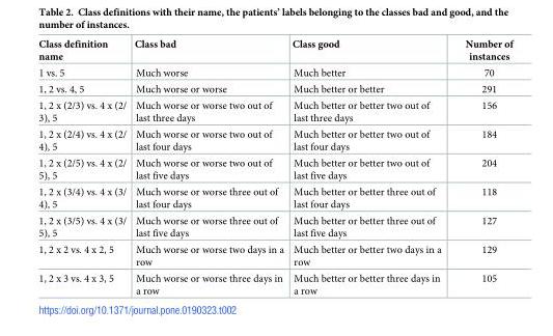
<table><thead><tr><td>Class definition name</td><td>Class bad</td><td>Class good</td><td>Number of instances</td></tr></thead><tbody><tr><td>1 vs. 5</td><td>Much worse</td><td>Much better</td><td>70</td></tr><tr><td>1, 2 vs. 4, 5</td><td>Much worse or worse</td><td>Much better or better</td><td>291</td></tr><tr><td>1, 2 x (2/3) vs. 4 x (2/ 3), 5</td><td>Much worse or worse two out of last three days</td><td>Much better or better two out of last three days</td><td>156</td></tr><tr><td>1, 2 x (2/4) vs. 4 x (2/ 4), 5</td><td>Much worse or worse two out of last four days</td><td>Much better or better two out of last four days</td><td>184</td></tr><tr><td>1, 2 x (2/5) vs. 4 x (2/ 5), 5</td><td>Much worse or worse two out of last five days</td><td>Much better or better two out of last five days</td><td>204</td></tr><tr><td>1, 2 x (3/4) vs. 4 x (3/ 4), 5</td><td>Much worse or worse three out of last four days</td><td>Much better or better three out of last four days</td><td>118</td></tr><tr><td>1, 2 x (3/5) vs. 4 x (3/ 5), 5</td><td>Much worse or worse three out of last five days</td><td>Much better or better three out of last five days</td><td>127</td></tr><tr><td>1, 2 x 2 vs. 4 x 2, 5</td><td>Much worse or worse two days in a row</td><td>Much better or better two days in a row</td><td>129</td></tr><tr><td>1, 2 x 3 vs. 4 x 3, 5</td><td>Much worse or worse three days in a row</td><td>Much better or better three days in a row</td><td>105</td></tr></tbody></table>